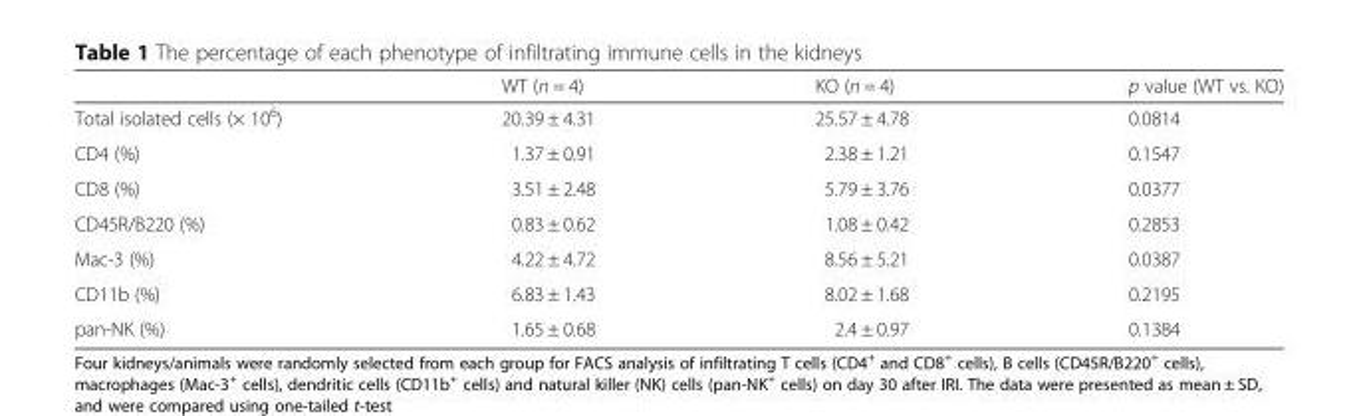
<table><thead><tr><td></td><td>WT (n = 4)</td><td>KO (n = 4)</td><td>p value (WT vs. KO)</td></tr></thead><tbody><tr><td>Total isolated cells (× 10<sup>6</sup>)</td><td>20.39 ± 4.31</td><td>25.57 ± 4.78</td><td>0.0814</td></tr><tr><td>CD4 (%)</td><td>1.37 ± 0.91</td><td>2.38 ± 1.21</td><td>0.1547</td></tr><tr><td>CD8 (%)</td><td>3.51 ± 2.48</td><td>5.79 ± 3.76</td><td>0.0377</td></tr><tr><td>CD45R/B220 (%)</td><td>0.83 ± 0.62</td><td>1.08 ± 0.42</td><td>0.2853</td></tr><tr><td>Mac-3 (%)</td><td>4.22 ± 4.72</td><td>8.56 ± 5.21</td><td>0.0387</td></tr><tr><td>CD11b (%)</td><td>6.83 ± 1.43</td><td>8.02 ± 1.68</td><td>0.2195</td></tr><tr><td>pan-NK (%)</td><td>1.65 ± 0.68</td><td>2.4 ± 0.97</td><td>0.1384</td></tr></tbody></table>